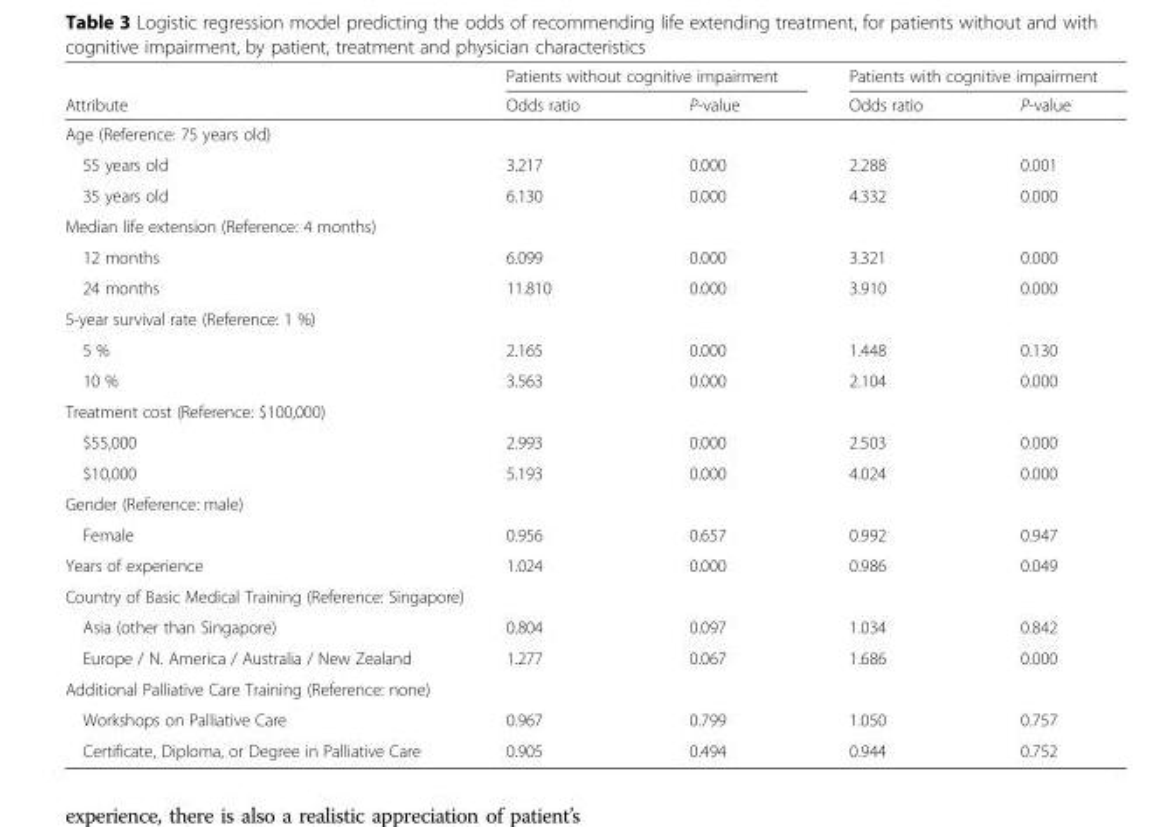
<table><thead><tr><td rowspan="2">Attribute</td><td colspan="2">Patients without cognitive impairment</td><td colspan="2">Patients with cognitive impairment</td></tr><tr><td>Odds ratio</td><td>P-value</td><td>Odds ratio</td><td>P-value</td></tr></thead><tbody><tr><td colspan="5">Age (Reference: 75 years old)</td></tr><tr><td>55 years old</td><td>3.217</td><td>0.000</td><td>2.288</td><td>0.001</td></tr><tr><td>35 years old</td><td>6.130</td><td>0.000</td><td>4.332</td><td>0.000</td></tr><tr><td colspan="5">Median life extension (Reference: 4 months)</td></tr><tr><td>12 months</td><td>6.099</td><td>0.000</td><td>3.321</td><td>0.000</td></tr><tr><td>24 months</td><td>11.810</td><td>0.000</td><td>3.910</td><td>0.000</td></tr><tr><td colspan="5">5-year survival rate (Reference: 1 %)</td></tr><tr><td>5 %</td><td>2.165</td><td>0.000</td><td>1.448</td><td>0.130</td></tr><tr><td>10 %</td><td>3.563</td><td>0.000</td><td>2.104</td><td>0.000</td></tr><tr><td colspan="5">Treatment cost (Reference: $100,000)</td></tr><tr><td>$55,000</td><td>2.993</td><td>0.000</td><td>2.503</td><td>0.000</td></tr><tr><td>$10,000</td><td>5.193</td><td>0.000</td><td>4.024</td><td>0.000</td></tr><tr><td colspan="5">Gender (Reference: male)</td></tr><tr><td>Female</td><td>0.956</td><td>0.657</td><td>0.992</td><td>0.947</td></tr><tr><td>Years of experience</td><td>1.024</td><td>0.000</td><td>0.986</td><td>0.049</td></tr><tr><td colspan="5">Country of Basic Medical Training (Reference: Singapore)</td></tr><tr><td>Asia (other than Singapore)</td><td>0.804</td><td>0.097</td><td>1.034</td><td>0.842</td></tr><tr><td>Europe / N. America / Australia / New Zealand</td><td>1.277</td><td>0.067</td><td>1.686</td><td>0.000</td></tr><tr><td colspan="5">Additional Palliative Care Training (Reference: none)</td></tr><tr><td>Workshops on Palliative Care</td><td>0.967</td><td>0.799</td><td>1.050</td><td>0.757</td></tr><tr><td>Certificate, Diploma, or Degree in Palliative Care</td><td>0.905</td><td>0.494</td><td>0.944</td><td>0.752</td></tr></tbody></table>